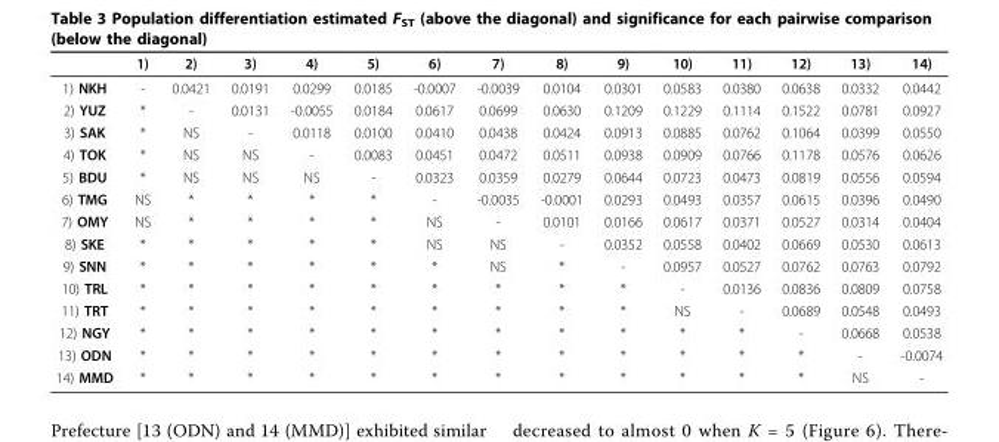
<table><thead><tr><td></td><td>1)</td><td>2)</td><td>3)</td><td>4)</td><td>5)</td><td>6)</td><td>7)</td><td>8)</td><td>9)</td><td>10)</td><td>11)</td><td>12)</td><td>13)</td><td>14)</td></tr></thead><tbody><tr><td>1) NKH</td><td>-</td><td>0.0421</td><td>0.0191</td><td>0.0299</td><td>0.0185</td><td>-0.0007</td><td>-0.0039</td><td>0.0104</td><td>0.0301</td><td>0.0583</td><td>0.0380</td><td>0.0638</td><td>0.0332</td><td>0.0442</td></tr><tr><td>2) YUZ</td><td>*</td><td>-</td><td>0.0131</td><td>-0.0055</td><td>0.0184</td><td>0.0617</td><td>0.0699</td><td>0.0630</td><td>0.1209</td><td>0.1229</td><td>0.1114</td><td>0.1522</td><td>0.0781</td><td>0.0927</td></tr><tr><td>3) SAK</td><td>*</td><td>NS</td><td>-</td><td>0.0118</td><td>0.0100</td><td>0.0410</td><td>0.0438</td><td>0.0424</td><td>0.0913</td><td>0.0885</td><td>0.0762</td><td>0.1064</td><td>0.0399</td><td>0.0550</td></tr><tr><td>4) TOK</td><td>*</td><td>NS</td><td>NS</td><td>-</td><td>0.0083</td><td>0.0451</td><td>0.0472</td><td>0.0511</td><td>0.0938</td><td>0.0909</td><td>0.0766</td><td>0.1178</td><td>0.0576</td><td>0.0626</td></tr><tr><td>5) BDU</td><td>*</td><td>NS</td><td>NS</td><td>NS</td><td>-</td><td>0.0323</td><td>0.0359</td><td>0.0279</td><td>0.0644</td><td>0.0723</td><td>0.0473</td><td>0.0819</td><td>0.0556</td><td>0.0594</td></tr><tr><td>6) TMG</td><td>NS</td><td>*</td><td>*</td><td>*</td><td>*</td><td>-</td><td>-0.0035</td><td>-0.0001</td><td>0.0293</td><td>0.0493</td><td>0.0357</td><td>0.0615</td><td>0.0396</td><td>0.0490</td></tr><tr><td>7) OMY</td><td>NS</td><td>*</td><td>*</td><td>*</td><td>*</td><td>NS</td><td>-</td><td>0.0101</td><td>0.0166</td><td>0.0617</td><td>0.0371</td><td>0.0527</td><td>0.0314</td><td>0.0404</td></tr><tr><td>8) SKE</td><td>*</td><td>*</td><td>*</td><td>*</td><td>*</td><td>NS</td><td>NS</td><td>-</td><td>0.0352</td><td>0.0558</td><td>0.0402</td><td>0.0669</td><td>0.0530</td><td>0.0613</td></tr><tr><td>9) SNN</td><td>*</td><td>*</td><td>*</td><td>*</td><td>*</td><td>*</td><td>NS</td><td>*</td><td>-</td><td>0.0957</td><td>0.0527</td><td>0.0762</td><td>0.0763</td><td>0.0792</td></tr><tr><td>10) TRL</td><td>*</td><td>*</td><td>*</td><td>*</td><td>*</td><td>*</td><td>*</td><td>*</td><td>*</td><td>-</td><td>0.0136</td><td>0.0836</td><td>0.0809</td><td>0.0758</td></tr><tr><td>11) TRT</td><td>*</td><td>*</td><td>*</td><td>*</td><td>*</td><td>*</td><td>*</td><td>*</td><td>*</td><td>NS</td><td>-</td><td>0.0689</td><td>0.0548</td><td>0.0493</td></tr><tr><td>12) NGY</td><td>*</td><td>*</td><td>*</td><td>*</td><td>*</td><td>*</td><td>*</td><td>*</td><td>*</td><td>*</td><td>*</td><td>-</td><td>0.0668</td><td>0.0538</td></tr><tr><td>13) ODN</td><td>*</td><td>*</td><td>*</td><td>*</td><td>*</td><td>*</td><td>*</td><td>*</td><td>*</td><td>*</td><td>*</td><td>*</td><td>-</td><td>-0.0074</td></tr><tr><td>14) MMD</td><td>*</td><td>*</td><td>*</td><td>*</td><td>*</td><td>*</td><td>*</td><td>*</td><td>*</td><td>*</td><td>*</td><td>*</td><td>NS</td><td>-</td></tr></tbody></table>